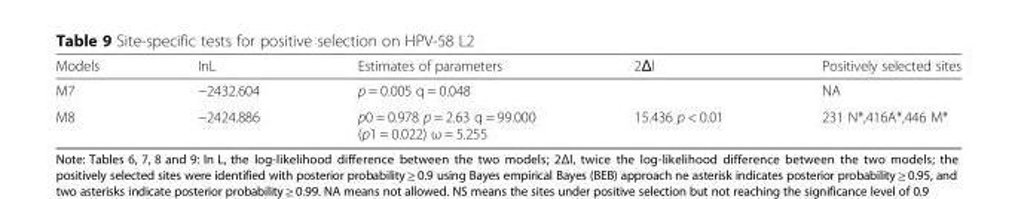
<table><thead><tr><td>Models</td><td>InL</td><td>Estimates of parameters</td><td>2Δl</td><td>Positively selected sites</td></tr></thead><tbody><tr><td>M7</td><td>−2432.604</td><td>p = 0.005 q = 0.048</td><td></td><td>NA</td></tr><tr><td>M8</td><td>−2424.886</td><td>p0 = 0.978 p = 2.63 q = 99.000 (p1 = 0.022) ω = 5.255</td><td>15.436 p &lt; 0.01</td><td>231 N*,416A*,446 M*</td></tr></tbody></table>